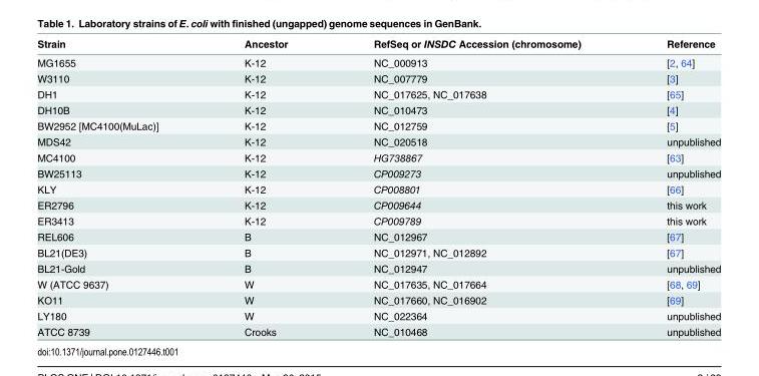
<table><thead><tr><td>Strain</td><td>Ancestor</td><td>RefSeq or INSDC Accession (chromosome)</td><td>Reference</td></tr></thead><tbody><tr><td>MG1655</td><td>K-12</td><td>NC_000913</td><td>[2, 64]</td></tr><tr><td>W3110</td><td>K-12</td><td>NC_007779</td><td>[3]</td></tr><tr><td>DH1</td><td>K-12</td><td>NC_017625, NC_017638</td><td>[65]</td></tr><tr><td>DH10B</td><td>K-12</td><td>NC_010473</td><td>[4]</td></tr><tr><td>BW2952 [MC4100(MuLac)]</td><td>K-12</td><td>NC_012759</td><td>[5]</td></tr><tr><td>MDS42</td><td>K-12</td><td>NC_020518</td><td>unpublished</td></tr><tr><td>MC4100</td><td>K-12</td><td>HG738867</td><td>[63]</td></tr><tr><td>BW25113</td><td>K-12</td><td>CP009273</td><td>unpublished</td></tr><tr><td>KLY</td><td>K-12</td><td>CP008801</td><td>[66]</td></tr><tr><td>ER2796</td><td>K-12</td><td>CP009644</td><td>this work</td></tr><tr><td>ER3413</td><td>K-12</td><td>CP009789</td><td>this work</td></tr><tr><td>REL606</td><td>B</td><td>NC_012967</td><td>[67]</td></tr><tr><td>BL21(DE3)</td><td>B</td><td>NC_012971, NC_012892</td><td>[67]</td></tr><tr><td>BL21-Gold</td><td>B</td><td>NC_012947</td><td>unpublished</td></tr><tr><td>W (ATCC 9637)</td><td>W</td><td>NC_017635, NC_017664</td><td>[68, 69]</td></tr><tr><td>KO11</td><td>W</td><td>NC_017660, NC_016902</td><td>[69]</td></tr><tr><td>LY180</td><td>W</td><td>NC_022364</td><td>unpublished</td></tr><tr><td>ATCC 8739</td><td>Crooks</td><td>NC_010468</td><td>unpublished</td></tr></tbody></table>